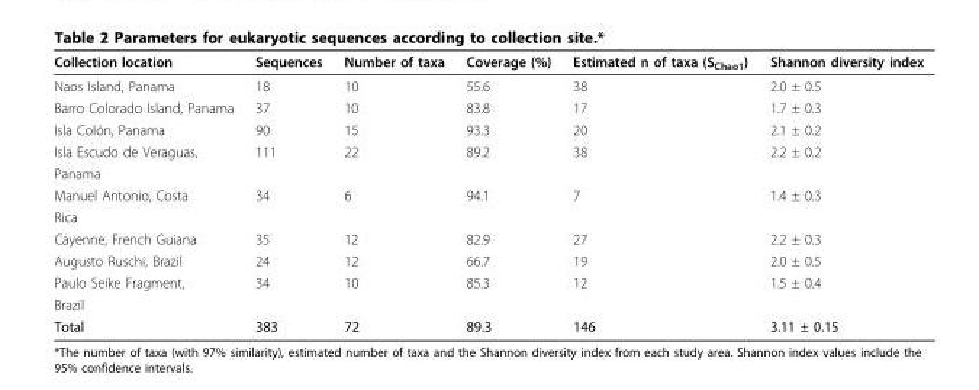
<table><thead><tr><td>Collection location</td><td>Sequences</td><td>Number of taxa</td><td>Coverage (%)</td><td>Estimated n of taxa (S<sub>Chao1</sub>)</td><td>Shannon diversity index</td></tr></thead><tbody><tr><td>Naos Island, Panama</td><td>18</td><td>10</td><td>55.6</td><td>38</td><td>2.0 ± 0.5</td></tr><tr><td>Barro Colorado Island, Panama</td><td>37</td><td>10</td><td>83.8</td><td>17</td><td>1.7 ± 0.3</td></tr><tr><td>Isla Colón, Panama</td><td>90</td><td>15</td><td>93.3</td><td>20</td><td>2.1 ± 0.2</td></tr><tr><td>Isla Escudo de Veraguas,</td><td>111</td><td>22</td><td>89.2</td><td>38</td><td>2.2 ± 0.2</td></tr><tr><td colspan="6">Panama</td></tr><tr><td>Manuel Antonio, Costa</td><td>34</td><td>6</td><td>94.1</td><td>7</td><td>1.4 ± 0.3</td></tr><tr><td colspan="6">Rica</td></tr><tr><td>Cayenne, French Guiana</td><td>35</td><td>12</td><td>82.9</td><td>27</td><td>2.2 ± 0.3</td></tr><tr><td>Augusto Ruschi, Brazil</td><td>24</td><td>12</td><td>66.7</td><td>19</td><td>2.0 ± 0.5</td></tr><tr><td>Paulo Seike Fragment,</td><td>34</td><td>10</td><td>85.3</td><td>12</td><td>1.5 ± 0.4</td></tr><tr><td colspan="6">Brazil</td></tr><tr><td>Total</td><td>383</td><td>72</td><td>89.3</td><td>146</td><td>3.11 ± 0.15</td></tr></tbody></table>